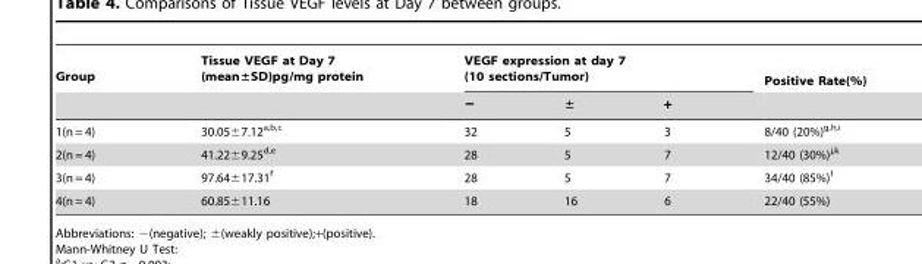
<table><thead><tr><td rowspan="2">Group</td><td rowspan="2">Tissue VEGF at Day 7 (mean±SD)pg/mg protein</td><td colspan="3">VEGF expression at day 7 (10 sections/Tumor)</td><td rowspan="2">Positive Rate(%)</td></tr><tr><td>−</td><td>±</td><td>+</td></tr></thead><tbody><tr><td>1(n = 4)</td><td>30.05±7.12<sup>a,</sup>b<sup>,</sup>c</td><td>32</td><td>5</td><td>3</td><td>8/40 (20%)<sup>g,</sup>h<sup>,</sup>i</td></tr><tr><td>2(n = 4)</td><td>41.22±9.25<sup>d,</sup>e</td><td>28</td><td>5</td><td>7</td><td>12/40 (30%)<sup>j,</sup>k</td></tr><tr><td>3(n = 4)</td><td>97.64±17.31<sup>f</sup></td><td>28</td><td>5</td><td>7</td><td>34/40 (85%)<sup>l</sup></td></tr><tr><td>4(n = 4)</td><td>60.85±11.16</td><td>18</td><td>16</td><td>6</td><td>22/40 (55%)</td></tr></tbody></table>